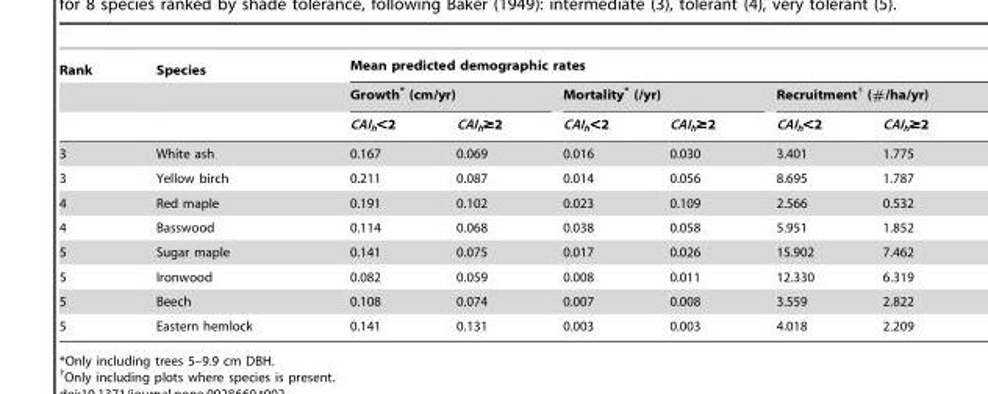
<table><thead><tr><td rowspan="3">Rank</td><td rowspan="3">Species</td><td colspan="6">Mean predicted demographic rates</td></tr><tr><td colspan="2">Growth* (cm/yr)</td><td colspan="2">Mortality* (/yr)</td><td colspan="2">Recruitment† (#/ha/yr)</td></tr><tr><td>CAI<sub>h</sub>&lt;2</td><td>CAI<sub>h</sub>≥2</td><td>CAI<sub>h</sub>&lt;2</td><td>CAI<sub>h</sub>≥2</td><td>CAI<sub>h</sub>&lt;2</td><td>CAI<sub>h</sub>≥2</td></tr></thead><tbody><tr><td>3</td><td>White ash</td><td>0.167</td><td>0.069</td><td>0.016</td><td>0.030</td><td>3.401</td><td>1.775</td></tr><tr><td>3</td><td>Yellow birch</td><td>0.211</td><td>0.087</td><td>0.014</td><td>0.056</td><td>8.695</td><td>1.787</td></tr><tr><td>4</td><td>Red maple</td><td>0.191</td><td>0.102</td><td>0.023</td><td>0.109</td><td>2.566</td><td>0.532</td></tr><tr><td>4</td><td>Basswood</td><td>0.114</td><td>0.068</td><td>0.038</td><td>0.058</td><td>5.951</td><td>1.852</td></tr><tr><td>5</td><td>Sugar maple</td><td>0.141</td><td>0.075</td><td>0.017</td><td>0.026</td><td>15.902</td><td>7.462</td></tr><tr><td>5</td><td>Ironwood</td><td>0.082</td><td>0.059</td><td>0.008</td><td>0.011</td><td>12.330</td><td>6.319</td></tr><tr><td>5</td><td>Beech</td><td>0.108</td><td>0.074</td><td>0.007</td><td>0.008</td><td>3.559</td><td>2.822</td></tr><tr><td>5</td><td>Eastern hemlock</td><td>0.141</td><td>0.131</td><td>0.003</td><td>0.003</td><td>4.018</td><td>2.209</td></tr></tbody></table>